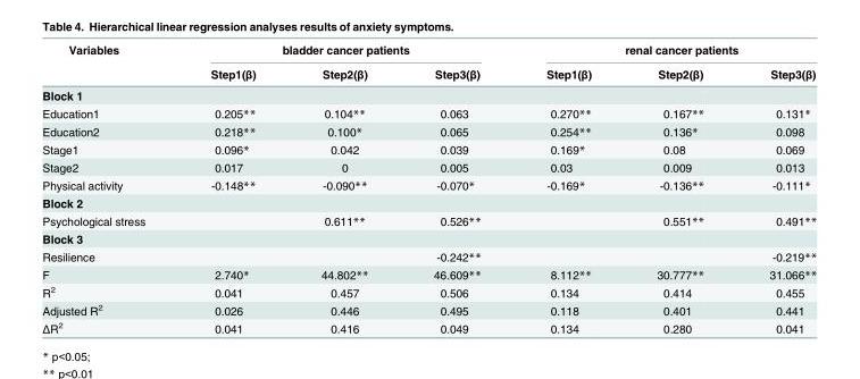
<table><thead><tr><td rowspan="2">Variables</td><td colspan="3">bladder cancer patients</td><td colspan="3">renal cancer patients</td></tr><tr><td>Step1(β)</td><td>Step2(β)</td><td>Step3(β)</td><td>Step1(β)</td><td>Step2(β)</td><td>Step3(β)</td></tr></thead><tbody><tr><td colspan="7">Block 1</td></tr><tr><td>Education1</td><td>0.205**</td><td>0.104**</td><td>0.063</td><td>0.270**</td><td>0.167**</td><td>0.131*</td></tr><tr><td>Education2</td><td>0.218**</td><td>0.100*</td><td>0.065</td><td>0.254**</td><td>0.136*</td><td>0.098</td></tr><tr><td>Stage1</td><td>0.096*</td><td>0.042</td><td>0.039</td><td>0.169*</td><td>0.08</td><td>0.069</td></tr><tr><td>Stage2</td><td>0.017</td><td>0</td><td>0.005</td><td>0.03</td><td>0.009</td><td>0.013</td></tr><tr><td>Physical activity</td><td>-0.148**</td><td>-0.090**</td><td>-0.070*</td><td>-0.169*</td><td>-0.136**</td><td>-0.111*</td></tr><tr><td colspan="7">Block 2</td></tr><tr><td>Psychological stress</td><td></td><td>0.611**</td><td>0.526**</td><td></td><td>0.551**</td><td>0.491**</td></tr><tr><td colspan="7">Block 3</td></tr><tr><td>Resilience</td><td></td><td></td><td>-0.242**</td><td></td><td></td><td>-0.219**</td></tr><tr><td>F</td><td>2.740*</td><td>44.802**</td><td>46.609**</td><td>8.112**</td><td>30.777**</td><td>31.066**</td></tr><tr><td>R<sup>2</sup></td><td>0.041</td><td>0.457</td><td>0.506</td><td>0.134</td><td>0.414</td><td>0.455</td></tr><tr><td>Adjusted R<sup>2</sup></td><td>0.026</td><td>0.446</td><td>0.495</td><td>0.118</td><td>0.401</td><td>0.441</td></tr><tr><td>ΔR<sup>2</sup></td><td>0.041</td><td>0.416</td><td>0.049</td><td>0.134</td><td>0.280</td><td>0.041</td></tr></tbody></table>